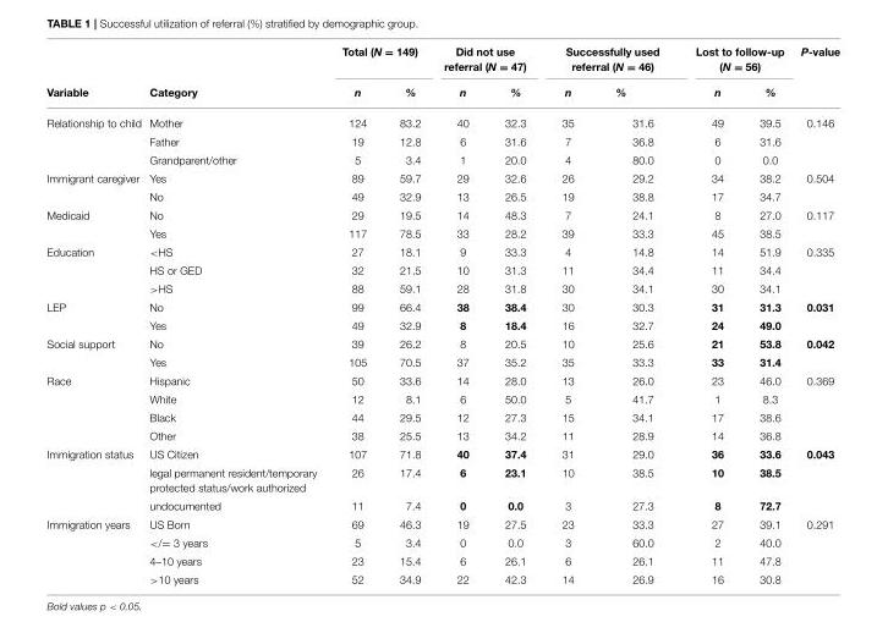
<table><thead><tr><td rowspan="2">Variable</td><td rowspan="2">Category</td><td colspan="2">Total (N = 149)</td><td colspan="2">Did not use referral (N = 47)</td><td colspan="2">Successfully used referral (N = 46)</td><td colspan="2">Lost to follow-up (N = 56)</td><td rowspan="2">P-value</td></tr><tr><td>n</td><td>%</td><td>n</td><td>%</td><td>n</td><td>%</td><td>n</td><td>%</td></tr></thead><tbody><tr><td rowspan="3">Relationship to child</td><td>Mother</td><td>124</td><td>83.2</td><td>40</td><td>32.3</td><td>35</td><td>31.6</td><td>49</td><td>39.5</td><td>0.146</td></tr><tr><td>Father</td><td>19</td><td>12.8</td><td>6</td><td>31.6</td><td>7</td><td>36.8</td><td>6</td><td>31.6</td><td></td></tr><tr><td>Grandparent/other</td><td>5</td><td>3.4</td><td>1</td><td>20.0</td><td>4</td><td>80.0</td><td>0</td><td>0.0</td><td></td></tr><tr><td rowspan="2">Immigrant caregiver</td><td>Yes</td><td>89</td><td>59.7</td><td>29</td><td>32.6</td><td>26</td><td>29.2</td><td>34</td><td>38.2</td><td>0.504</td></tr><tr><td>No</td><td>49</td><td>32.9</td><td>13</td><td>26.5</td><td>19</td><td>38.8</td><td>17</td><td>34.7</td><td></td></tr><tr><td rowspan="2">Medicaid</td><td>No</td><td>29</td><td>19.5</td><td>14</td><td>48.3</td><td>7</td><td>24.1</td><td>8</td><td>27.0</td><td>0.117</td></tr><tr><td>Yes</td><td>117</td><td>78.5</td><td>33</td><td>28.2</td><td>39</td><td>33.3</td><td>45</td><td>38.5</td><td></td></tr><tr><td rowspan="3">Education</td><td>&lt;HS</td><td>27</td><td>18.1</td><td>9</td><td>33.3</td><td>4</td><td>14.8</td><td>14</td><td>51.9</td><td>0.335</td></tr><tr><td>HS or GED</td><td>32</td><td>21.5</td><td>10</td><td>31.3</td><td>11</td><td>34.4</td><td>11</td><td>34.4</td><td></td></tr><tr><td>&gt;HS</td><td>88</td><td>59.1</td><td>28</td><td>31.8</td><td>30</td><td>34.1</td><td>30</td><td>34.1</td><td></td></tr><tr><td rowspan="2">LEP</td><td>No</td><td>99</td><td>66.4</td><td>38</td><td>38.4</td><td>30</td><td>30.3</td><td>31</td><td>31.3</td><td>0.031</td></tr><tr><td>Yes</td><td>49</td><td>32.9</td><td>8</td><td>18.4</td><td>16</td><td>32.7</td><td>24</td><td>49.0</td><td></td></tr><tr><td rowspan="2">Social support</td><td>No</td><td>39</td><td>26.2</td><td>8</td><td>20.5</td><td>10</td><td>25.6</td><td>21</td><td>53.8</td><td>0.042</td></tr><tr><td>Yes</td><td>105</td><td>70.5</td><td>37</td><td>35.2</td><td>35</td><td>33.3</td><td>33</td><td>31.4</td><td></td></tr><tr><td rowspan="4">Race</td><td>Hispanic</td><td>50</td><td>33.6</td><td>14</td><td>28.0</td><td>13</td><td>26.0</td><td>23</td><td>46.0</td><td>0.369</td></tr><tr><td>White</td><td>12</td><td>8.1</td><td>6</td><td>50.0</td><td>5</td><td>41.7</td><td>1</td><td>8.3</td><td></td></tr><tr><td>Black</td><td>44</td><td>29.5</td><td>12</td><td>27.3</td><td>15</td><td>34.1</td><td>17</td><td>38.6</td><td></td></tr><tr><td>Other</td><td>38</td><td>25.5</td><td>13</td><td>34.2</td><td>11</td><td>28.9</td><td>14</td><td>36.8</td><td></td></tr><tr><td rowspan="3">Immigration status</td><td>US Citizen</td><td>107</td><td>71.8</td><td>40</td><td>37.4</td><td>31</td><td>29.0</td><td>36</td><td>33.6</td><td>0.043</td></tr><tr><td>legal permanent resident/temporary protected status/work authorized</td><td>26</td><td>17.4</td><td>6</td><td>23.1</td><td>10</td><td>38.5</td><td>10</td><td>38.5</td><td></td></tr><tr><td>undocumented</td><td>11</td><td>7.4</td><td>0</td><td>0.0</td><td>3</td><td>27.3</td><td>8</td><td>72.7</td><td></td></tr><tr><td rowspan="4">Immigration years</td><td>US Born</td><td>69</td><td>46.3</td><td>19</td><td>27.5</td><td>23</td><td>33.3</td><td>27</td><td>39.1</td><td>0.291</td></tr><tr><td>&lt;/= 3 years</td><td>5</td><td>3.4</td><td>0</td><td>0.0</td><td>3</td><td>60.0</td><td>2</td><td>40.0</td><td></td></tr><tr><td>4–10 years</td><td>23</td><td>15.4</td><td>6</td><td>26.1</td><td>6</td><td>26.1</td><td>11</td><td>47.8</td><td></td></tr><tr><td>&gt;10 years</td><td>52</td><td>34.9</td><td>22</td><td>42.3</td><td>14</td><td>26.9</td><td>16</td><td>30.8</td><td></td></tr></tbody></table>